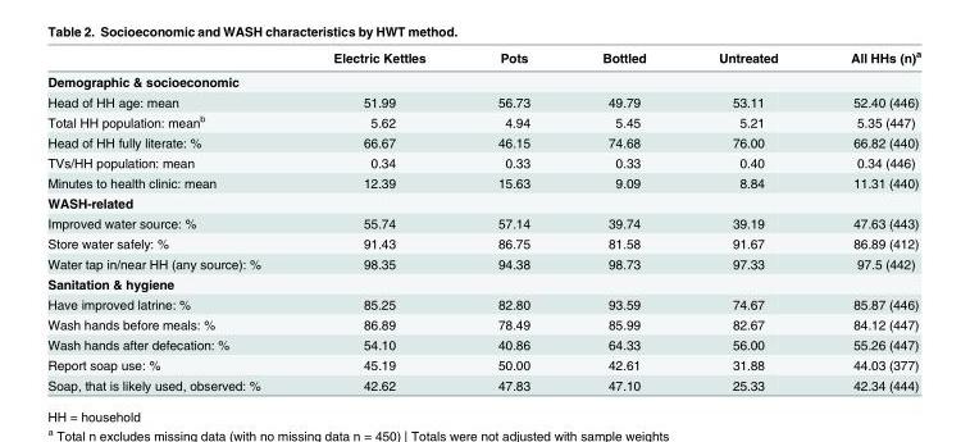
<table><thead><tr><td></td><td>Electric Kettles</td><td>Pots</td><td>Bottled</td><td>Untreated</td><td>All HHs (n)<sup>a</sup></td></tr></thead><tbody><tr><td colspan="6">Demographic &amp; socioeconomic</td></tr><tr><td>Head of HH age: mean</td><td>51.99</td><td>56.73</td><td>49.79</td><td>53.11</td><td>52.40 (446)</td></tr><tr><td>Total HH population: mean<sup>b</sup></td><td>5.62</td><td>4.94</td><td>5.45</td><td>5.21</td><td>5.35 (447)</td></tr><tr><td>Head of HH fully literate: %</td><td>66.67</td><td>46.15</td><td>74.68</td><td>76.00</td><td>66.82 (440)</td></tr><tr><td>TVs/HH population: mean</td><td>0.34</td><td>0.33</td><td>0.33</td><td>0.40</td><td>0.34 (446)</td></tr><tr><td>Minutes to health clinic: mean</td><td>12.39</td><td>15.63</td><td>9.09</td><td>8.84</td><td>11.31 (440)</td></tr><tr><td colspan="6">WASH-related</td></tr><tr><td>Improved water source: %</td><td>55.74</td><td>57.14</td><td>39.74</td><td>39.19</td><td>47.63 (443)</td></tr><tr><td>Store water safely: %</td><td>91.43</td><td>86.75</td><td>81.58</td><td>91.67</td><td>86.89 (412)</td></tr><tr><td>Water tap in/near HH (any source): %</td><td>98.35</td><td>94.38</td><td>98.73</td><td>97.33</td><td>97.5 (442)</td></tr><tr><td colspan="6">Sanitation &amp; hygiene</td></tr><tr><td>Have improved latrine: %</td><td>85.25</td><td>82.80</td><td>93.59</td><td>74.67</td><td>85.87 (446)</td></tr><tr><td>Wash hands before meals: %</td><td>86.89</td><td>78.49</td><td>85.99</td><td>82.67</td><td>84.12 (447)</td></tr><tr><td>Wash hands after defecation: %</td><td>54.10</td><td>40.86</td><td>64.33</td><td>56.00</td><td>55.26 (447)</td></tr><tr><td>Report soap use: %</td><td>45.19</td><td>50.00</td><td>42.61</td><td>31.88</td><td>44.03 (377)</td></tr><tr><td>Soap, that is likely used, observed: %</td><td>42.62</td><td>47.83</td><td>47.10</td><td>25.33</td><td>42.34 (444)</td></tr></tbody></table>